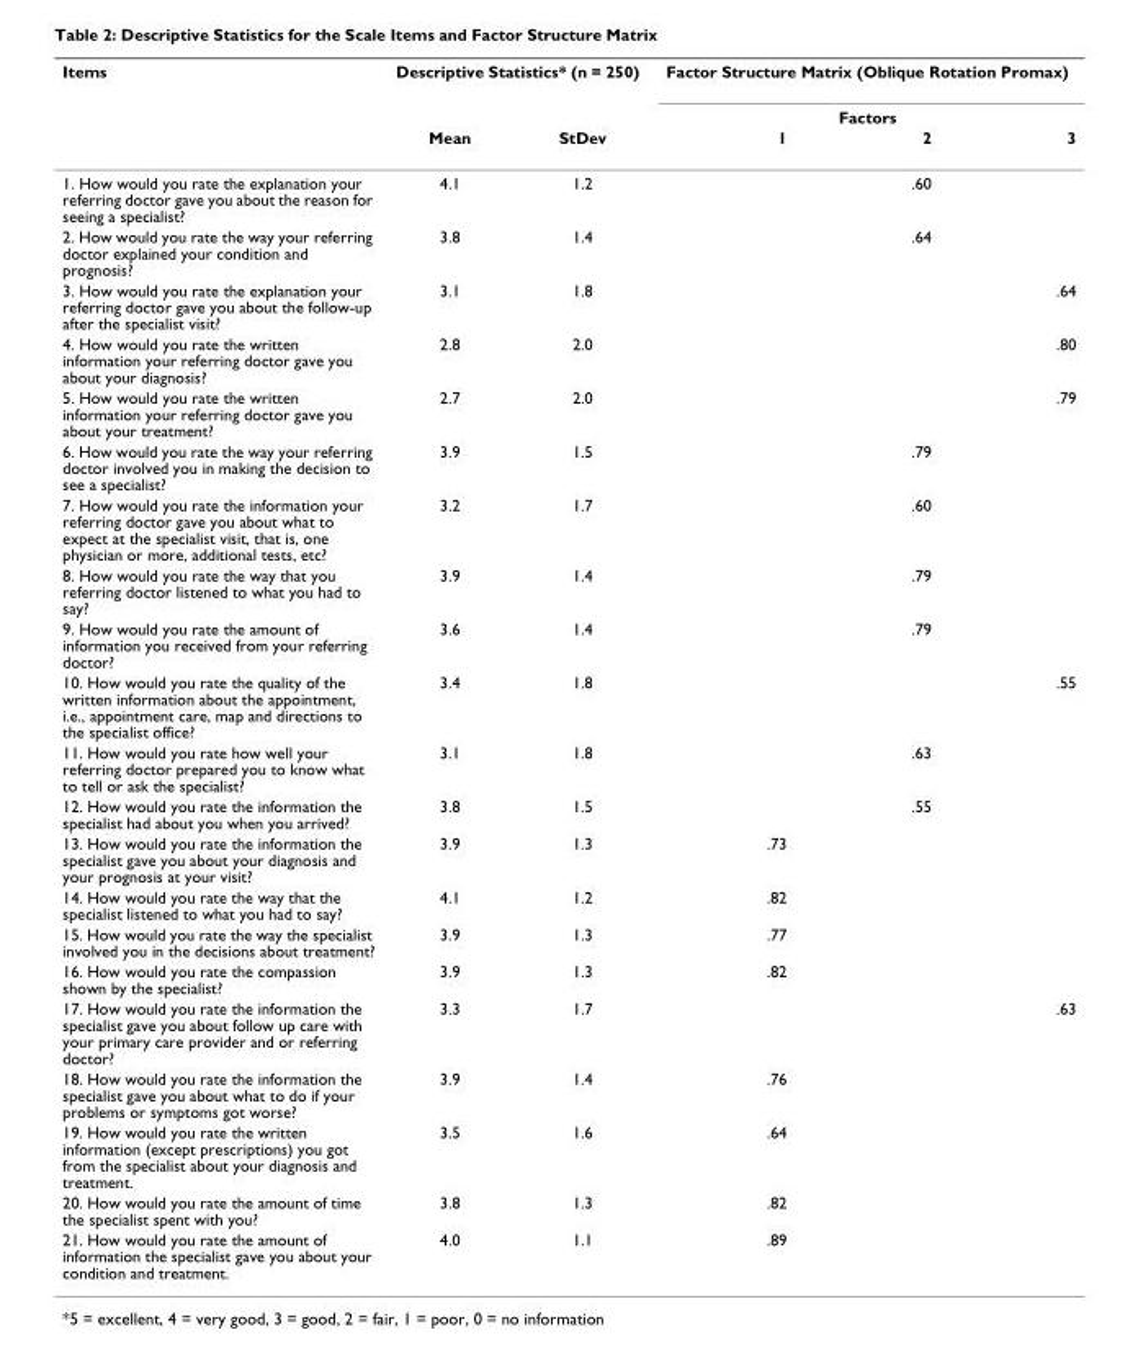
<table><thead><tr><td rowspan="3">Items</td><td colspan="2">Descriptive Statistics* (n = 250)</td><td rowspan="2" colspan="3">Factor Structure Matrix (Oblique Rotation Promax) Factors</td></tr><tr><td rowspan="2">Mean</td><td rowspan="2">StDev</td></tr><tr><td>1</td><td>2</td><td>3</td></tr></thead><tbody><tr><td>1. How would you rate the explanation your referring doctor gave you about the reason for seeing a specialist?</td><td>4.1</td><td>1.2</td><td></td><td>.60</td><td></td></tr><tr><td>2. How would you rate the way your referring doctor explained your condition and prognosis?</td><td>3.8</td><td>1.4</td><td></td><td>.64</td><td></td></tr><tr><td>3. How would you rate the explanation your referring doctor gave you about the follow-up after the specialist visit?</td><td>3.1</td><td>1.8</td><td></td><td></td><td>.64</td></tr><tr><td>4. How would you rate the written information your referring doctor gave you about your diagnosis?</td><td>2.8</td><td>2.0</td><td></td><td></td><td>.80</td></tr><tr><td>5. How would you rate the written information your referring doctor gave you about your treatment?</td><td>2.7</td><td>2.0</td><td></td><td></td><td>.79</td></tr><tr><td>6. How would you rate the way your referring doctor involved you in making the decision to see a specialist?</td><td>3.9</td><td>1.5</td><td></td><td>.79</td><td></td></tr><tr><td>7. How would you rate the information your referring doctor gave you about what to expect at the specialist visit, that is, one physician or more, additional tests, etc?</td><td>3.2</td><td>1.7</td><td></td><td>.60</td><td></td></tr><tr><td>8. How would you rate the way that you referring doctor listened to what you had to say?</td><td>3.9</td><td>1.4</td><td></td><td>.79</td><td></td></tr><tr><td>9. How would you rate the amount of information you received from your referring doctor?</td><td>3.6</td><td>1.4</td><td></td><td>.79</td><td></td></tr><tr><td>10. How would you rate the quality of the written information about the appointment, i.e., appointment care, map and directions to the specialist office?</td><td>3.4</td><td>1.8</td><td></td><td></td><td>.55</td></tr><tr><td>11. How would you rate how well your referring doctor prepared you to know what to tell or ask the specialist?</td><td>3.1</td><td>1.8</td><td></td><td>.63</td><td></td></tr><tr><td>12. How would you rate the information the specialist had about you when you arrived?</td><td>3.8</td><td>1.5</td><td></td><td>.55</td><td></td></tr><tr><td>13. How would you rate the information the specialist gave you about your diagnosis and your prognosis at your visit?</td><td>3.9</td><td>1.3</td><td>.73</td><td></td><td></td></tr><tr><td>14. How would you rate the way that the specialist listened to what you had to say?</td><td>4.1</td><td>1.2</td><td>.82</td><td></td><td></td></tr><tr><td>15. How would you rate the way the specialist involved you in the decisions about treatment?</td><td>3.9</td><td>1.3</td><td>.77</td><td></td><td></td></tr><tr><td>16. How would you rate the compassion shown by the specialist?</td><td>3.9</td><td>1.3</td><td>.82</td><td></td><td></td></tr><tr><td>17. How would you rate the information the specialist gave you about follow up care with your primary care provider and or referring doctor?</td><td>3.3</td><td>1.7</td><td></td><td></td><td>.63</td></tr><tr><td>18. How would you rate the information the specialist gave you about what to do if your problems or symptoms got worse?</td><td>3.9</td><td>1.4</td><td>.76</td><td></td><td></td></tr><tr><td>19. How would you rate the written information (except prescriptions) you got from the specialist about your diagnosis and treatment.</td><td>3.5</td><td>1.6</td><td>.64</td><td></td><td></td></tr><tr><td>20. How would you rate the amount of time the specialist spent with you?</td><td>3.8</td><td>1.3</td><td>.82</td><td></td><td></td></tr><tr><td>21. How would you rate the amount of information the specialist gave you about your condition and treatment.</td><td>4.0</td><td>1.1</td><td>.89</td><td></td><td></td></tr></tbody></table>